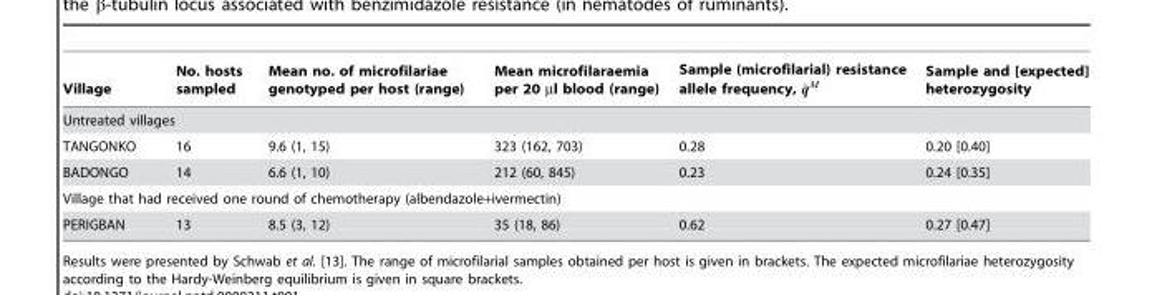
<table><thead><tr><td>Village</td><td>No. hosts sampled</td><td>Mean no. of microfilariae genotyped per host (range)</td><td>Mean microfilaraemia per 20 µl blood (range)</td><td>Sample (microfilarial) resistance allele frequency, ^qM</td><td>Sample and [expected] heterozygosity</td></tr></thead><tbody><tr><td colspan="6">Untreated villages</td></tr><tr><td>TANGONKO</td><td>16</td><td>9.6 (1, 15)</td><td>323 (162, 703)</td><td>0.28</td><td>0.20 [0.40]</td></tr><tr><td>BADONGO</td><td>14</td><td>6.6 (1, 10)</td><td>212 (60, 845)</td><td>0.23</td><td>0.24 [0.35]</td></tr><tr><td colspan="6">Village that had received one round of chemotherapy (albendazole+ivermectin)</td></tr><tr><td>PERIGBAN</td><td>13</td><td>8.5 (3, 12)</td><td>35 (18, 86)</td><td>0.62</td><td>0.27 [0.47]</td></tr></tbody></table>